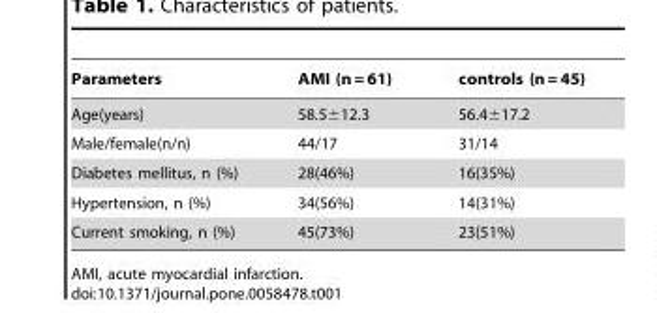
<table><thead><tr><td>Parameters</td><td>AMI (n = 61)</td><td>controls (n = 45)</td></tr></thead><tbody><tr><td>Age(years)</td><td>58.5±12.3</td><td>56.4±17.2</td></tr><tr><td>Male/female(n/n)</td><td>44/17</td><td>31/14</td></tr><tr><td>Diabetes mellitus, n (%)</td><td>28(46%)</td><td>16(35%)</td></tr><tr><td>Hypertension, n (%)</td><td>34(56%)</td><td>14(31%)</td></tr><tr><td>Current smoking, n (%)</td><td>45(73%)</td><td>23(51%)</td></tr></tbody></table>